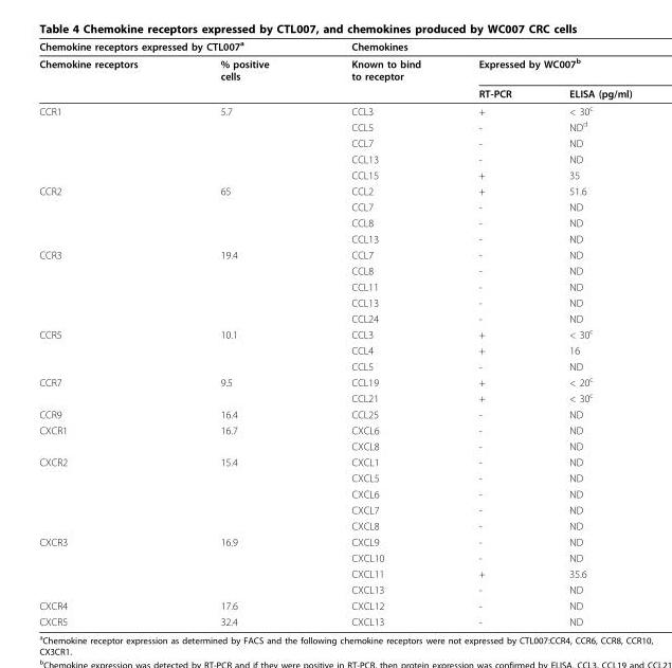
<table><thead><tr><td colspan="2">Chemokine receptors expressed by CTL007<sup>a</sup></td><td colspan="3">Chemokines</td></tr><tr><td rowspan="2">Chemokine receptors</td><td rowspan="2">% positive cells</td><td rowspan="2">Known to bind to receptor</td><td colspan="2">Expressed by WC007<sup>b</sup></td></tr><tr><td>RT-PCR</td><td>ELISA (pg/ml)</td></tr></thead><tbody><tr><td rowspan="5">CCR1</td><td>5.7</td><td>CCL3</td><td>+</td><td>&lt; 30<sup>c</sup></td></tr><tr><td></td><td>CCL5</td><td>-</td><td>ND<sup>d</sup></td></tr><tr><td></td><td>CCL7</td><td>-</td><td>ND</td></tr><tr><td></td><td>CCL13</td><td>-</td><td>ND</td></tr><tr><td></td><td>CCL15</td><td>+</td><td>35</td></tr><tr><td rowspan="4">CCR2</td><td>65</td><td>CCL2</td><td>+</td><td>51.6</td></tr><tr><td></td><td>CCL7</td><td>-</td><td>ND</td></tr><tr><td></td><td>CCL8</td><td>-</td><td>ND</td></tr><tr><td></td><td>CCL13</td><td>-</td><td>ND</td></tr><tr><td rowspan="5">CCR3</td><td>19.4</td><td>CCL7</td><td>-</td><td>ND</td></tr><tr><td></td><td>CCL8</td><td>-</td><td>ND</td></tr><tr><td></td><td>CCL11</td><td>-</td><td>ND</td></tr><tr><td></td><td>CCL13</td><td>-</td><td>ND</td></tr><tr><td></td><td>CCL24</td><td>-</td><td>ND</td></tr><tr><td rowspan="3">CCR5</td><td>10.1</td><td>CCL3</td><td>+</td><td>&lt; 30<sup>c</sup></td></tr><tr><td></td><td>CCL4</td><td>+</td><td>16</td></tr><tr><td></td><td>CCL5</td><td>-</td><td>ND</td></tr><tr><td rowspan="2">CCR7</td><td>9.5</td><td>CCL19</td><td>+</td><td>&lt; 20<sup>c</sup></td></tr><tr><td></td><td>CCL21</td><td>+</td><td>&lt; 30<sup>c</sup></td></tr><tr><td>CCR9</td><td>16.4</td><td>CCL25</td><td>-</td><td>ND</td></tr><tr><td rowspan="2">CXCR1</td><td>16.7</td><td>CXCL6</td><td>-</td><td>ND</td></tr><tr><td></td><td>CXCL8</td><td>-</td><td>ND</td></tr><tr><td rowspan="5">CXCR2</td><td>15.4</td><td>CXCL1</td><td>-</td><td>ND</td></tr><tr><td></td><td>CXCL5</td><td>-</td><td>ND</td></tr><tr><td></td><td>CXCL6</td><td>-</td><td>ND</td></tr><tr><td></td><td>CXCL7</td><td>-</td><td>ND</td></tr><tr><td></td><td>CXCL8</td><td>-</td><td>ND</td></tr><tr><td rowspan="4">CXCR3</td><td>16.9</td><td>CXCL9</td><td>-</td><td>ND</td></tr><tr><td></td><td>CXCL10</td><td>-</td><td>ND</td></tr><tr><td></td><td>CXCL11</td><td>+</td><td>35.6</td></tr><tr><td></td><td>CXCL13</td><td>-</td><td>ND</td></tr><tr><td>CXCR4</td><td>17.6</td><td>CXCL12</td><td>-</td><td>ND</td></tr><tr><td>CXCR5</td><td>32.4</td><td>CXCL13</td><td>-</td><td>ND</td></tr></tbody></table>